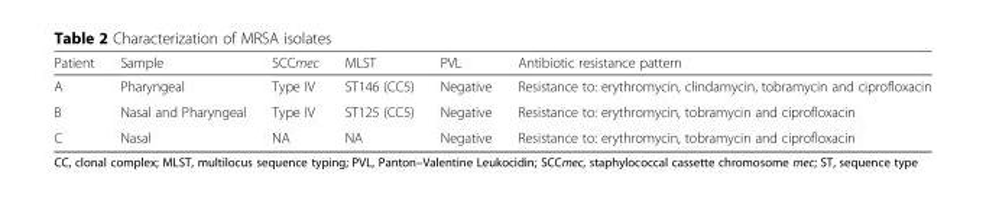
<table><thead><tr><td>Patient</td><td>Sample</td><td>SCCmec</td><td>MLST</td><td>PVL</td><td>Antibiotic resistance pattern</td></tr></thead><tbody><tr><td>A</td><td>Pharyngeal</td><td>Type IV</td><td>ST146 (CC5)</td><td>Negative</td><td>Resistance to: erythromycin, clindamycin, tobramycin and ciprofloxacin</td></tr><tr><td>B</td><td>Nasal and Pharyngeal</td><td>Type IV</td><td>ST125 (CC5)</td><td>Negative</td><td>Resistance to: erythromycin, tobramycin and ciprofloxacin</td></tr><tr><td>C</td><td>Nasal</td><td>NA</td><td>NA</td><td>Negative</td><td>Resistance to: erythromycin, tobramycin and ciprofloxacin</td></tr></tbody></table>